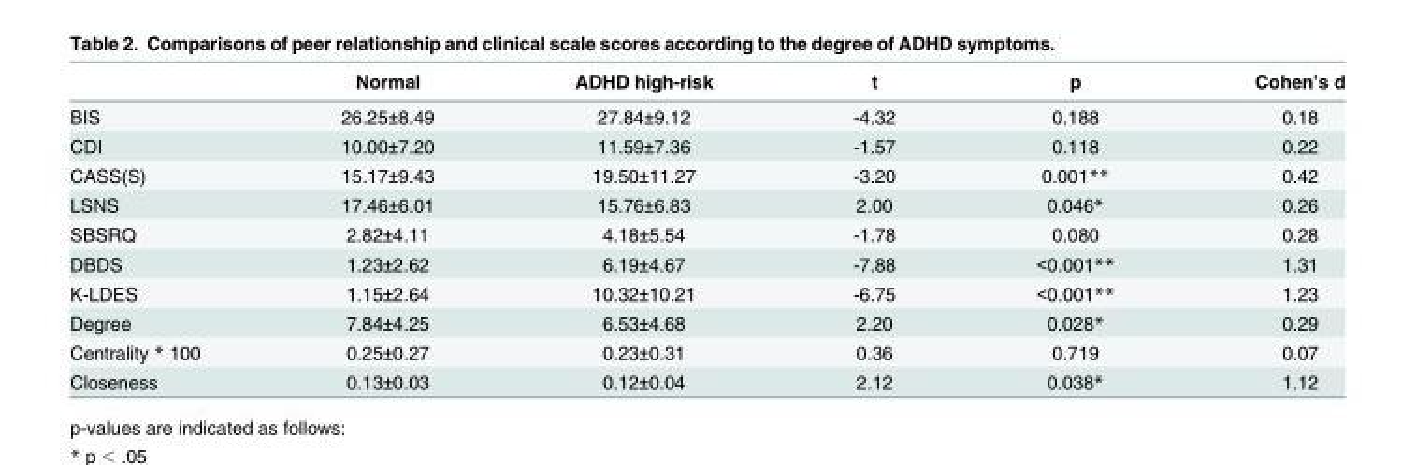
<table><thead><tr><td></td><td>Normal</td><td>ADHD high-risk</td><td>t</td><td>p</td><td>Cohen’s d</td></tr></thead><tbody><tr><td>BIS</td><td>26.25±8.49</td><td>27.84±9.12</td><td>-4.32</td><td>0.188</td><td>0.18</td></tr><tr><td>CDI</td><td>10.00±7.20</td><td>11.59±7.36</td><td>-1.57</td><td>0.118</td><td>0.22</td></tr><tr><td>CASS(S)</td><td>15.17±9.43</td><td>19.50±11.27</td><td>-3.20</td><td>0.001**</td><td>0.42</td></tr><tr><td>LSNS</td><td>17.46±6.01</td><td>15.76±6.83</td><td>2.00</td><td>0.046*</td><td>0.26</td></tr><tr><td>SBSRQ</td><td>2.82±4.11</td><td>4.18±5.54</td><td>-1.78</td><td>0.080</td><td>0.28</td></tr><tr><td>DBDS</td><td>1.23±2.62</td><td>6.19±4.67</td><td>-7.88</td><td>&lt;0.001**</td><td>1.31</td></tr><tr><td>K-LDES</td><td>1.15±2.64</td><td>10.32±10.21</td><td>-6.75</td><td>&lt;0.001**</td><td>1.23</td></tr><tr><td>Degree</td><td>7.84±4.25</td><td>6.53±4.68</td><td>2.20</td><td>0.028*</td><td>0.29</td></tr><tr><td>Centrality * 100</td><td>0.25±0.27</td><td>0.23±0.31</td><td>0.36</td><td>0.719</td><td>0.07</td></tr><tr><td>Closeness</td><td>0.13±0.03</td><td>0.12±0.04</td><td>2.12</td><td>0.038*</td><td>1.12</td></tr></tbody></table>